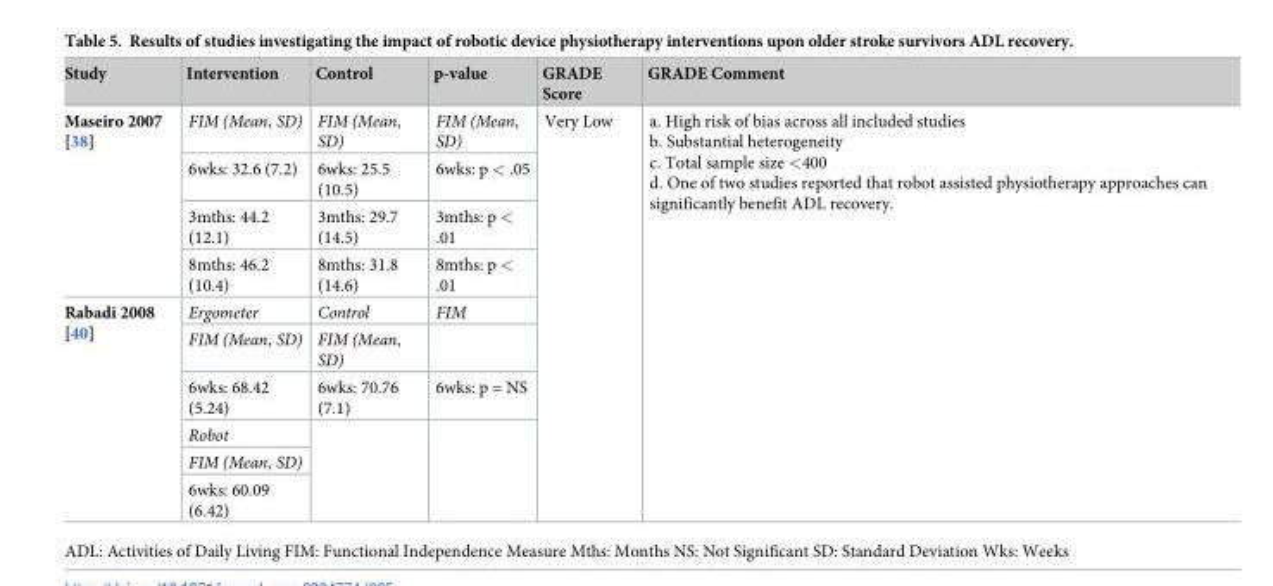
<table><thead><tr><td>Study</td><td>Intervention</td><td>Control</td><td>p-value</td><td>GRADE Score</td><td>GRADE Comment</td></tr></thead><tbody><tr><td rowspan="4">Maseiro 2007 [38]</td><td>FIM (Mean, SD)</td><td>FIM (Mean, SD)</td><td>FIM (Mean, SD)</td><td rowspan="10">Very Low</td><td rowspan="10">a. High risk of bias across all included studies b. Substantial heterogeneity c. Total sample size &lt;400 d. One of two studies reported that robot assisted physiotherapy approaches can significantly benefit ADL recovery.</td></tr><tr><td>6wks: 32.6 (7.2)</td><td>6wks: 25.5 (10.5)</td><td>6wks: p &lt; .05</td></tr><tr><td>3mths: 44.2 (12.1)</td><td>3mths: 29.7 (14.5)</td><td>3mths: p &lt; .01</td></tr><tr><td>8mths: 46.2 (10.4)</td><td>8mths: 31.8 (14.6)</td><td>8mths: p &lt; .01</td></tr><tr><td rowspan="6">Rabadi 2008 [40]</td><td>Ergometer</td><td>Control</td><td>FIM</td></tr><tr><td>FIM (Mean, SD)</td><td>FIM (Mean, SD)</td><td></td></tr><tr><td>6wks: 68.42 (5.24)</td><td>6wks: 70.76 (7.1)</td><td>6wks: p = NS</td></tr><tr><td>Robot</td><td rowspan="3"></td><td rowspan="3"></td></tr><tr><td>FIM (Mean, SD)</td></tr><tr><td>6wks: 60.09 (6.42)</td></tr></tbody></table>